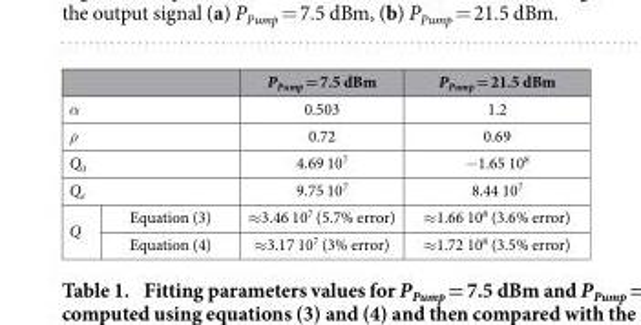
<table><thead><tr><td></td><td></td><td>P<sub>Pump</sub> = 7.5 dBm</td><td>P<sub>Pump</sub> = 21.5 dBm</td></tr></thead><tbody><tr><td colspan="2">α</td><td>0.503</td><td>1.2</td></tr><tr><td colspan="2">ρ</td><td>0.72</td><td>0.69</td></tr><tr><td colspan="2">Q<sub>0</sub></td><td>4.69 10<sup>7</sup></td><td>− 1.65 10<sup>8</sup></td></tr><tr><td colspan="2">Q<sub>e</sub></td><td>9.75 10<sup>7</sup></td><td>8.44 10<sup>7</sup></td></tr><tr><td rowspan="2">Q</td><td>Equation (3)</td><td>≈ 3.46 10<sup>7</sup> (5.7% error)</td><td>≈ 1.66 10<sup>8</sup> (3.6% error)</td></tr><tr><td>Equation (4)</td><td>≈ 3.17 10<sup>7</sup> (3% error)</td><td>≈ 1.72 10<sup>8</sup> (3.5% error)</td></tr></tbody></table>